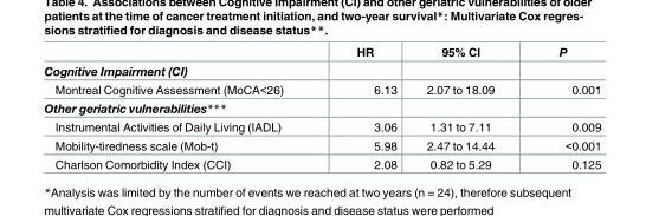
<table><thead><tr><td></td><td>HR</td><td>95% CI</td><td>P</td></tr></thead><tbody><tr><td colspan="4">Cognitive Impairment (CI)</td></tr><tr><td>Montreal Cognitive Assessment (MoCA&lt;26)</td><td>6.13</td><td>2.07 to 18.09</td><td>0.001</td></tr><tr><td colspan="4">Other geriatric vulnerabilities***</td></tr><tr><td>Instrumental Activities of Daily Living (IADL)</td><td>3.06</td><td>1.31 to 7.11</td><td>0.009</td></tr><tr><td>Mobility-tiredness scale (Mob-t)</td><td>5.98</td><td>2.47 to 14.44</td><td>&lt;0.001</td></tr><tr><td>Charlson Comorbidity Index (CCI)</td><td>2.08</td><td>0.82 to 5.29</td><td>0.125</td></tr></tbody></table>